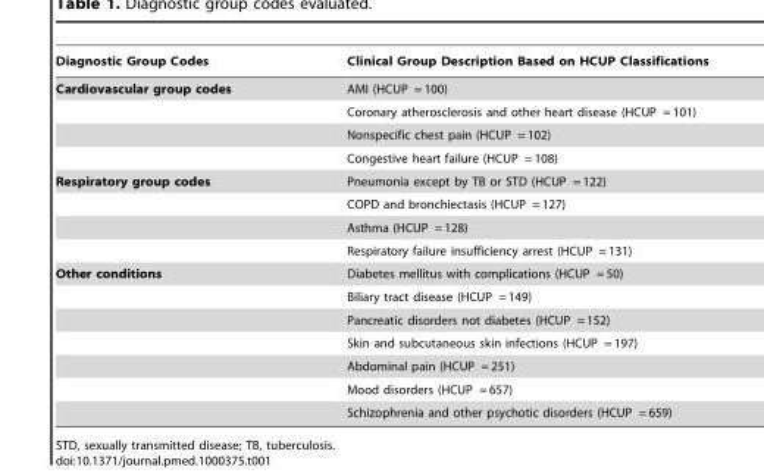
<table><thead><tr><td>Diagnostic Group Codes</td><td>Clinical Group Description Based on HCUP Classifications</td></tr></thead><tbody><tr><td rowspan="4">Cardiovascular group codes</td><td>AMI (HCUP = 100)</td></tr><tr><td>Coronary atherosclerosis and other heart disease (HCUP = 101)</td></tr><tr><td>Nonspecific chest pain (HCUP = 102)</td></tr><tr><td>Congestive heart failure (HCUP = 108)</td></tr><tr><td rowspan="4">Respiratory group codes</td><td>Pneumonia except by TB or STD (HCUP = 122)</td></tr><tr><td>COPD and bronchiectasis (HCUP = 127)</td></tr><tr><td>Asthma (HCUP = 128)</td></tr><tr><td>Respiratory failure insufficiency arrest (HCUP = 131)</td></tr><tr><td rowspan="7">Other conditions</td><td>Diabetes mellitus with complications (HCUP = 50)</td></tr><tr><td>Biliary tract disease (HCUP = 149)</td></tr><tr><td>Pancreatic disorders not diabetes (HCUP = 152)</td></tr><tr><td>Skin and subcutaneous skin infections (HCUP = 197)</td></tr><tr><td>Abdominal pain (HCUP = 251)</td></tr><tr><td>Mood disorders (HCUP = 657)</td></tr><tr><td>Schizophrenia and other psychotic disorders (HCUP = 659)</td></tr></tbody></table>